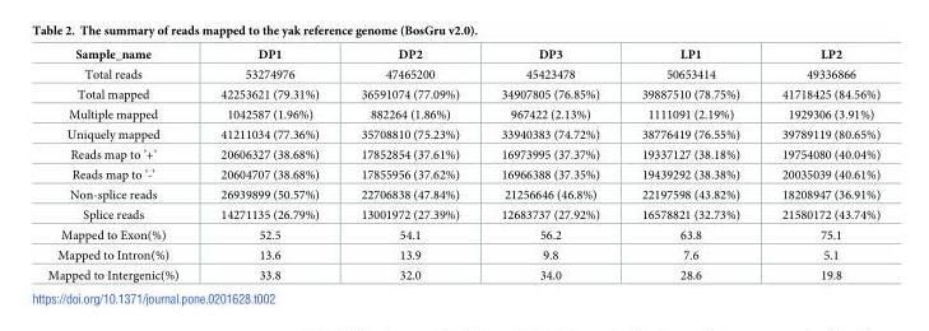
<table><thead><tr><td>Sample_name</td><td>DP1</td><td>DP2</td><td>DP3</td><td>LP1</td><td>LP2</td></tr></thead><tbody><tr><td>Total reads</td><td>53274976</td><td>47465200</td><td>45423478</td><td>50653414</td><td>49336866</td></tr><tr><td>Total mapped</td><td>42253621 (79.31%)</td><td>36591074 (77.09%)</td><td>34907805 (76.85%)</td><td>39887510 (78.75%)</td><td>41718425 (84.56%)</td></tr><tr><td>Multiple mapped</td><td>1042587 (1.96%)</td><td>882264 (1.86%)</td><td>967422 (2.13%)</td><td>1111091 (2.19%)</td><td>1929306 (3.91%)</td></tr><tr><td>Uniquely mapped</td><td>41211034 (77.36%)</td><td>35708810 (75.23%)</td><td>33940383 (74.72%)</td><td>38776419 (76.55%)</td><td>39789119 (80.65%)</td></tr><tr><td>Reads map to ’+’</td><td>20606327 (38.68%)</td><td>17852854 (37.61%)</td><td>16973995 (37.37%)</td><td>19337127 (38.18%)</td><td>19754080 (40.04%)</td></tr><tr><td>Reads map to ’-’</td><td>20604707 (38.68%)</td><td>17855956 (37.62%)</td><td>16966388 (37.35%)</td><td>19439292 (38.38%)</td><td>20035039 (40.61%)</td></tr><tr><td>Non-splice reads</td><td>26939899 (50.57%)</td><td>22706838 (47.84%)</td><td>21256646 (46.8%)</td><td>22197598 (43.82%)</td><td>18208947 (36.91%)</td></tr><tr><td>Splice reads</td><td>14271135 (26.79%)</td><td>13001972 (27.39%)</td><td>12683737 (27.92%)</td><td>16578821 (32.73%)</td><td>21580172 (43.74%)</td></tr><tr><td>Mapped to Exon(%)</td><td>52.5</td><td>54.1</td><td>56.2</td><td>63.8</td><td>75.1</td></tr><tr><td>Mapped to Intron(%)</td><td>13.6</td><td>13.9</td><td>9.8</td><td>7.6</td><td>5.1</td></tr><tr><td>Mapped to Intergenic(%)</td><td>33.8</td><td>32.0</td><td>34.0</td><td>28.6</td><td>19.8</td></tr></tbody></table>